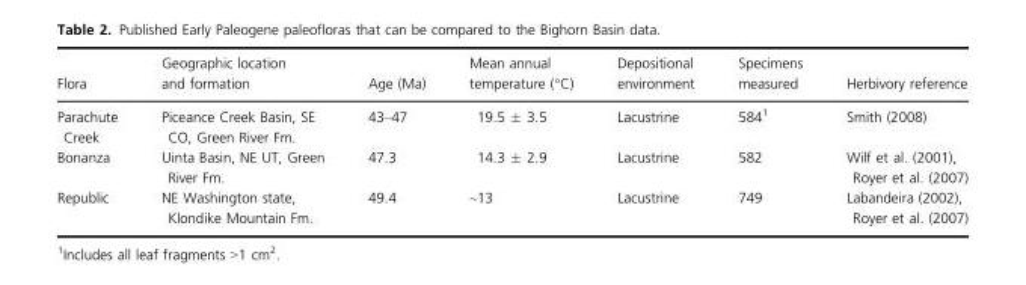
<table><thead><tr><td>Flora</td><td>Geographic location and formation</td><td>Age (Ma)</td><td>Mean annual temperature (°C)</td><td>Depositional environment</td><td>Specimens measured</td><td>Herbivory reference</td></tr></thead><tbody><tr><td>Parachute Creek</td><td>Piceance Creek Basin, SE CO, Green River Fm.</td><td>43–47</td><td>19.5 ± 3.5</td><td>Lacustrine</td><td>5841</td><td>Smith (2008)</td></tr><tr><td>Bonanza</td><td>Uinta Basin, NE UT, Green River Fm.</td><td>47.3</td><td>14.3 ± 2.9</td><td>Lacustrine</td><td>582</td><td>Wilf et al. (2001), Royer et al. (2007)</td></tr><tr><td>Republic</td><td>NE Washington state, Klondike Mountain Fm.</td><td>49.4</td><td>~13</td><td>Lacustrine</td><td>749</td><td>Labandeira (2002), Royer et al. (2007)</td></tr></tbody></table>